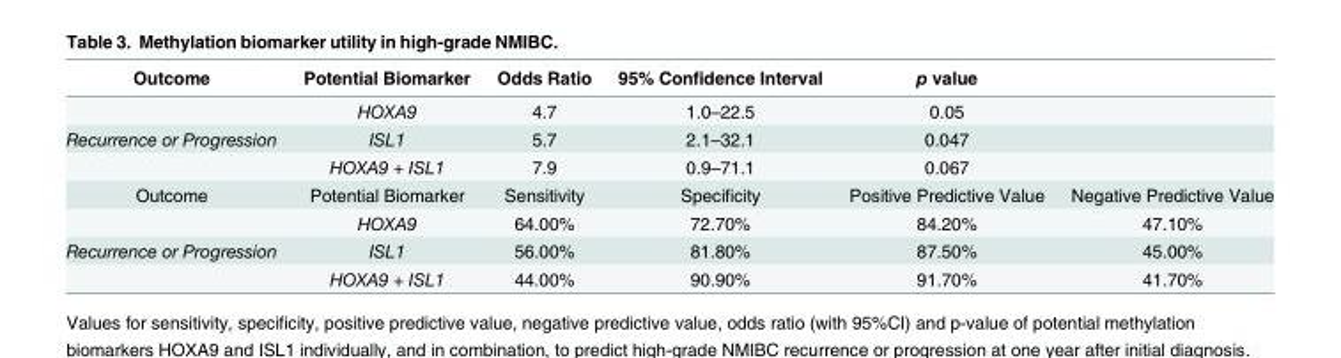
<table><thead><tr><td>Outcome</td><td>Potential Biomarker</td><td>Odds Ratio</td><td>95% Confidence Interval</td><td>p value</td><td></td></tr></thead><tbody><tr><td></td><td>HOXA9</td><td>4.7</td><td>1.0–22.5</td><td>0.05</td><td></td></tr><tr><td rowspan="2">Recurrence or Progression</td><td>ISL1</td><td>5.7</td><td>2.1–32.1</td><td>0.047</td><td></td></tr><tr><td>HOXA9 + ISL1</td><td>7.9</td><td>0.9–71.1</td><td>0.067</td><td></td></tr><tr><td rowspan="2">Outcome</td><td>Potential Biomarker</td><td>Sensitivity</td><td>Specificity</td><td>Positive Predictive Value</td><td>Negative Predictive Value</td></tr><tr><td>HOXA9</td><td>64.00%</td><td>72.70%</td><td>84.20%</td><td>47.10%</td></tr><tr><td rowspan="2">Recurrence or Progression</td><td>ISL1</td><td>56.00%</td><td>81.80%</td><td>87.50%</td><td>45.00%</td></tr><tr><td>HOXA9 + ISL1</td><td>44.00%</td><td>90.90%</td><td>91.70%</td><td>41.70%</td></tr></tbody></table>